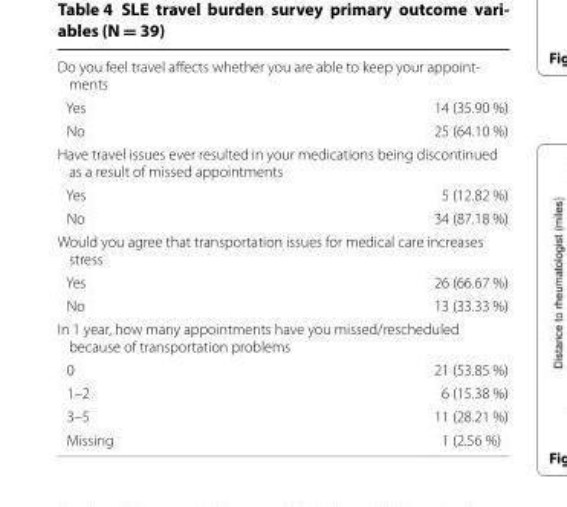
<table><tbody><tr><td colspan="2">Do you feel travel affects whether you are able to keep your appoint- ments</td></tr><tr><td>Yes</td><td>14 (35.90 %)</td></tr><tr><td>No</td><td>25 (64.10 %)</td></tr><tr><td colspan="2">Have travel issues ever resulted in your medications being discontinued as a result of missed appointments</td></tr><tr><td>Yes</td><td>5 (12.82 %)</td></tr><tr><td>No</td><td>34 (87.18 %)</td></tr><tr><td colspan="2">Would you agree that transportation issues for medical care increases stress</td></tr><tr><td>Yes</td><td>26 (66.67 %)</td></tr><tr><td>No</td><td>13 (33.33 %)</td></tr><tr><td colspan="2">In 1 year, how many appointments have you missed/rescheduled because of transportation problems</td></tr><tr><td>0</td><td>21 (53.85 %)</td></tr><tr><td>1–2</td><td>6 (15.38 %)</td></tr><tr><td>3–5</td><td>11 (28.21 %)</td></tr><tr><td>Missing</td><td>1 (2.56 %)</td></tr></tbody></table>